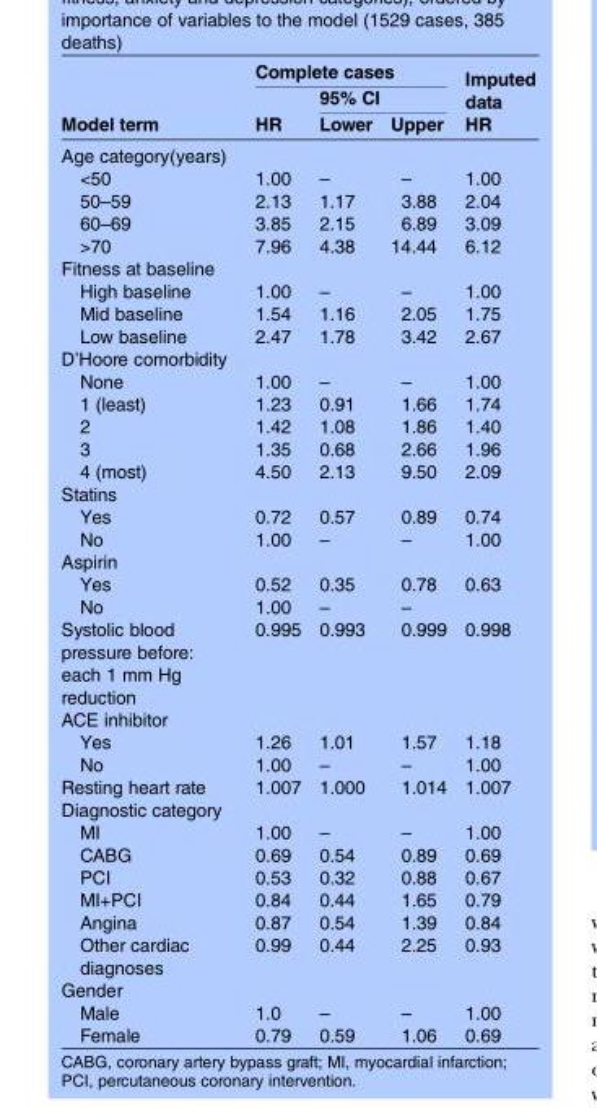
<table><thead><tr><td rowspan="3">Model term</td><td colspan="3">Complete cases</td><td rowspan="3">Imputed data HR</td></tr><tr><td rowspan="2">HR</td><td colspan="2">95% CI</td></tr><tr><td>Lower</td><td>Upper</td></tr></thead><tbody><tr><td colspan="5">Age category(years)</td></tr><tr><td>&lt;50</td><td>1.00</td><td>–</td><td>–</td><td>1.00</td></tr><tr><td>50–59</td><td>2.13</td><td>1.17</td><td>3.88</td><td>2.04</td></tr><tr><td>60–69</td><td>3.85</td><td>2.15</td><td>6.89</td><td>3.09</td></tr><tr><td>&gt;70</td><td>7.96</td><td>4.38</td><td>14.44</td><td>6.12</td></tr><tr><td colspan="5">Fitness at baseline</td></tr><tr><td>High baseline</td><td>1.00</td><td>–</td><td>–</td><td>1.00</td></tr><tr><td>Mid baseline</td><td>1.54</td><td>1.16</td><td>2.05</td><td>1.75</td></tr><tr><td>Low baseline</td><td>2.47</td><td>1.78</td><td>3.42</td><td>2.67</td></tr><tr><td colspan="5">D’Hoore comorbidity</td></tr><tr><td>None</td><td>1.00</td><td>–</td><td>–</td><td>1.00</td></tr><tr><td>1 (least)</td><td>1.23</td><td>0.91</td><td>1.66</td><td>1.74</td></tr><tr><td>2</td><td>1.42</td><td>1.08</td><td>1.86</td><td>1.40</td></tr><tr><td>3</td><td>1.35</td><td>0.68</td><td>2.66</td><td>1.96</td></tr><tr><td>4 (most)</td><td>4.50</td><td>2.13</td><td>9.50</td><td>2.09</td></tr><tr><td colspan="5">Statins</td></tr><tr><td>Yes</td><td>0.72</td><td>0.57</td><td>0.89</td><td>0.74</td></tr><tr><td>No</td><td>1.00</td><td>–</td><td>–</td><td>1.00</td></tr><tr><td colspan="5">Aspirin</td></tr><tr><td>Yes</td><td>0.52</td><td>0.35</td><td>0.78</td><td>0.63</td></tr><tr><td>No</td><td>1.00</td><td>–</td><td>–</td><td></td></tr><tr><td>Systolic blood pressure before: each 1 mm Hg reduction</td><td>0.995</td><td>0.993</td><td>0.999</td><td>0.998</td></tr><tr><td colspan="5">ACE inhibitor</td></tr><tr><td>Yes</td><td>1.26</td><td>1.01</td><td>1.57</td><td>1.18</td></tr><tr><td>No</td><td>1.00</td><td>–</td><td>–</td><td>1.00</td></tr><tr><td>Resting heart rate</td><td>1.007</td><td>1.000</td><td>1.014</td><td>1.007</td></tr><tr><td colspan="5">Diagnostic category</td></tr><tr><td>MI</td><td>1.00</td><td>–</td><td>–</td><td>1.00</td></tr><tr><td>CABG</td><td>0.69</td><td>0.54</td><td>0.89</td><td>0.69</td></tr><tr><td>PCI</td><td>0.53</td><td>0.32</td><td>0.88</td><td>0.67</td></tr><tr><td>MI+PCI</td><td>0.84</td><td>0.44</td><td>1.65</td><td>0.79</td></tr><tr><td>Angina</td><td>0.87</td><td>0.54</td><td>1.39</td><td>0.84</td></tr><tr><td>Other cardiac diagnoses</td><td>0.99</td><td>0.44</td><td>2.25</td><td>0.93</td></tr><tr><td colspan="5">Gender</td></tr><tr><td>Male</td><td>1.0</td><td>–</td><td>–</td><td>1.00</td></tr><tr><td>Female</td><td>0.79</td><td>0.59</td><td>1.06</td><td>0.69</td></tr></tbody></table>